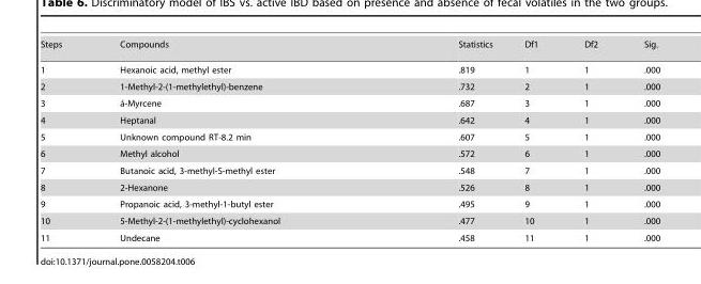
<table><tbody><tr><td>Steps</td><td>Compounds</td><td>Statistics</td><td>Df1</td><td>Df2</td><td>Sig.</td></tr><tr><td>1</td><td>Hexanoic acid, methyl ester</td><td>.819</td><td>1</td><td>1</td><td>.000</td></tr><tr><td>2</td><td>1-Methyl-2-(1-methylethyl)-benzene</td><td>.732</td><td>2</td><td>1</td><td>.000</td></tr><tr><td>3</td><td>a´-Myrcene</td><td>.687</td><td>3</td><td>1</td><td>.000</td></tr><tr><td>4</td><td>Heptanal</td><td>.642</td><td>4</td><td>1</td><td>.000</td></tr><tr><td>5</td><td>Unknown compound RT-8.2 min</td><td>.607</td><td>5</td><td>1</td><td>.000</td></tr><tr><td>6</td><td>Methyl alcohol</td><td>.572</td><td>6</td><td>1</td><td>.000</td></tr><tr><td>7</td><td>Butanoic acid, 3-methyl-S-methyl ester</td><td>.548</td><td>7</td><td>1</td><td>.000</td></tr><tr><td>8</td><td>2-Hexanone</td><td>.526</td><td>8</td><td>1</td><td>.000</td></tr><tr><td>9</td><td>Propanoic acid, 3-methyl-1-butyl ester</td><td>.495</td><td>9</td><td>1</td><td>.000</td></tr><tr><td>10</td><td>5-Methyl-2-(1-methylethyl)-cyclohexanol</td><td>.477</td><td>10</td><td>1</td><td>.000</td></tr><tr><td>11</td><td>Undecane</td><td>.458</td><td>11</td><td>1</td><td>.000</td></tr></tbody></table>